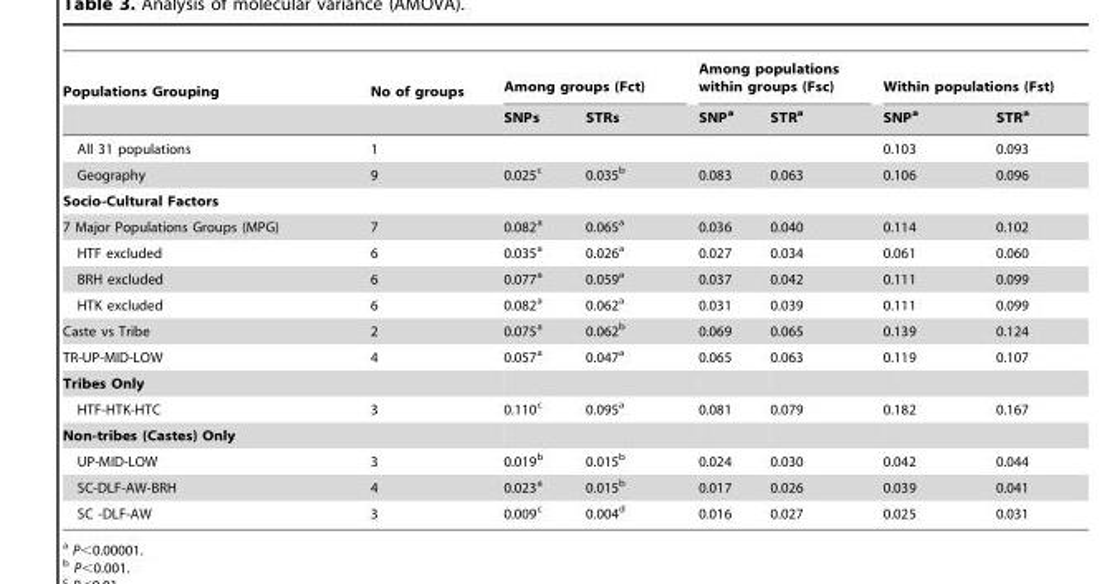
<table><thead><tr><td rowspan="2">Populations Grouping</td><td rowspan="2">No of groups</td><td colspan="2">Among groups (Fct)</td><td colspan="2">Among populations within groups (Fsc)</td><td colspan="2">Within populations (Fst)</td></tr><tr><td>SNPs</td><td>STRs</td><td>SNP<sup>a</sup></td><td>STR<sup>a</sup></td><td>SNP<sup>a</sup></td><td>STR<sup>a</sup></td></tr></thead><tbody><tr><td>All 31 populations</td><td>1</td><td></td><td></td><td></td><td></td><td>0.103</td><td>0.093</td></tr><tr><td>Geography</td><td>9</td><td>0.025<sup>c</sup></td><td>0.035<sup>b</sup></td><td>0.083</td><td>0.063</td><td>0.106</td><td>0.096</td></tr><tr><td colspan="8">Socio-Cultural Factors</td></tr><tr><td>7 Major Populations Groups (MPG)</td><td>7</td><td>0.082<sup>a</sup></td><td>0.065<sup>a</sup></td><td>0.036</td><td>0.040</td><td>0.114</td><td>0.102</td></tr><tr><td>HTF excluded</td><td>6</td><td>0.035<sup>a</sup></td><td>0.026<sup>a</sup></td><td>0.027</td><td>0.034</td><td>0.061</td><td>0.060</td></tr><tr><td>BRH excluded</td><td>6</td><td>0.077<sup>a</sup></td><td>0.059<sup>a</sup></td><td>0.037</td><td>0.042</td><td>0.111</td><td>0.099</td></tr><tr><td>HTK excluded</td><td>6</td><td>0.082<sup>a</sup></td><td>0.062<sup>a</sup></td><td>0.031</td><td>0.039</td><td>0.111</td><td>0.099</td></tr><tr><td>Caste vs Tribe</td><td>2</td><td>0.075<sup>a</sup></td><td>0.062<sup>b</sup></td><td>0.069</td><td>0.065</td><td>0.139</td><td>0.124</td></tr><tr><td>TR-UP-MID-LOW</td><td>4</td><td>0.057<sup>a</sup></td><td>0.047<sup>a</sup></td><td>0.065</td><td>0.063</td><td>0.119</td><td>0.107</td></tr><tr><td colspan="8">Tribes Only</td></tr><tr><td>HTF-HTK-HTC</td><td>3</td><td>0.110<sup>c</sup></td><td>0.095<sup>a</sup></td><td>0.081</td><td>0.079</td><td>0.182</td><td>0.167</td></tr><tr><td colspan="8">Non-tribes (Castes) Only</td></tr><tr><td>UP-MID-LOW</td><td>3</td><td>0.019<sup>b</sup></td><td>0.015<sup>b</sup></td><td>0.024</td><td>0.030</td><td>0.042</td><td>0.044</td></tr><tr><td>SC-DLF-AW-BRH</td><td>4</td><td>0.023<sup>a</sup></td><td>0.015<sup>b</sup></td><td>0.017</td><td>0.026</td><td>0.039</td><td>0.041</td></tr><tr><td>SC -DLF-AW</td><td>3</td><td>0.009<sup>c</sup></td><td>0.004<sup>d</sup></td><td>0.016</td><td>0.027</td><td>0.025</td><td>0.031</td></tr></tbody></table>